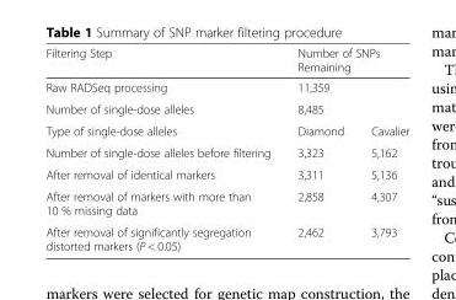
<table><thead><tr><td rowspan="4">Filtering Step Raw RADSeq processing Number of single-dose alleles Type of single-dose alleles</td><td rowspan="3" colspan="2">Number of SNPs Remaining 11,359 8,485</td></tr><tr></tr><tr></tr><tr><td>Diamond</td><td>Cavalier</td></tr></thead><tbody><tr><td>Number of single-dose alleles before filtering</td><td>3,323</td><td>5,162</td></tr><tr><td>After removal of identical markers</td><td>3,311</td><td>5,136</td></tr><tr><td>After removal of markers with more than 10 % missing data</td><td>2,858</td><td>4,307</td></tr><tr><td>After removal of significantly segregation distorted markers (P &lt; 0.05)</td><td>2,462</td><td>3,793</td></tr></tbody></table>